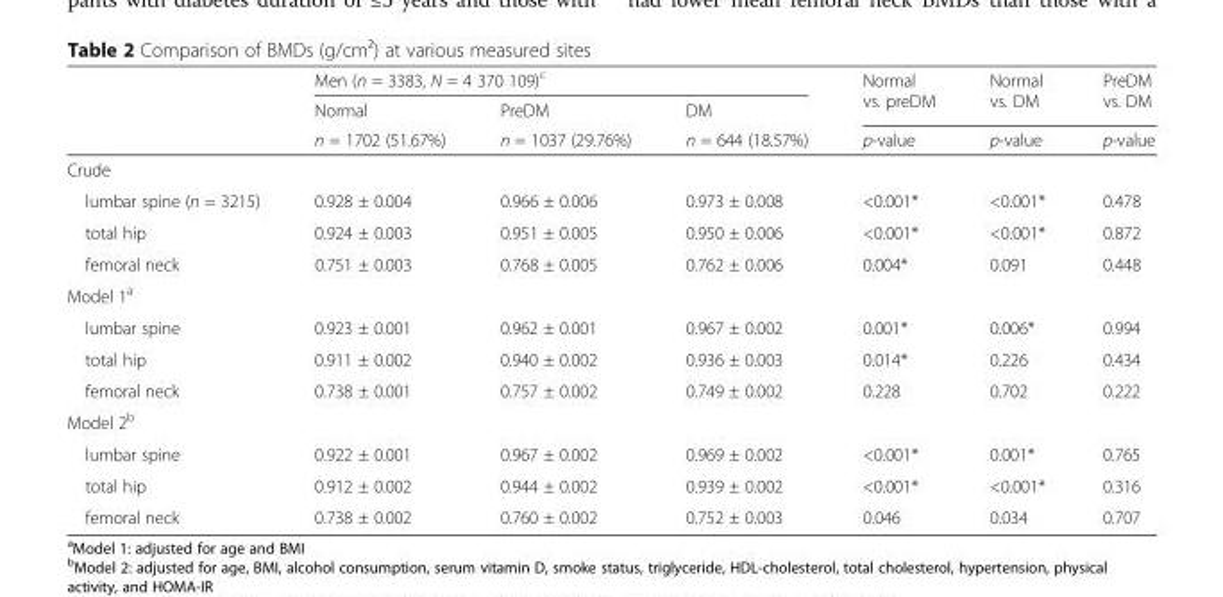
<table><thead><tr><td rowspan="3"></td><td colspan="3">Men (n = 3383, N = 4 370 109)<sup>c</sup></td><td rowspan="3">Normal vs. preDM p-value</td><td rowspan="3">Normal vs. DM p-value</td><td rowspan="3">PreDM vs. DM p-value</td></tr><tr><td rowspan="2">Normal n = 1702 (51.67%)</td><td rowspan="2">PreDM n = 1037 (29.76%)</td><td rowspan="2">DM n = 644 (18.57%)</td></tr><tr></tr></thead><tbody><tr><td colspan="7">Crude</td></tr><tr><td>lumbar spine (n = 3215)</td><td>0.928 ± 0.004</td><td>0.966 ± 0.006</td><td>0.973 ± 0.008</td><td>&lt;0.001*</td><td>&lt;0.001*</td><td>0.478</td></tr><tr><td>total hip</td><td>0.924 ± 0.003</td><td>0.951 ± 0.005</td><td>0.950 ± 0.006</td><td>&lt;0.001*</td><td>&lt;0.001*</td><td>0.872</td></tr><tr><td>femoral neck</td><td>0.751 ± 0.003</td><td>0.768 ± 0.005</td><td>0.762 ± 0.006</td><td>0.004*</td><td>0.091</td><td>0.448</td></tr><tr><td colspan="7">Model 1<sup>a</sup></td></tr><tr><td>lumbar spine</td><td>0.923 ± 0.001</td><td>0.962 ± 0.001</td><td>0.967 ± 0.002</td><td>0.001*</td><td>0.006*</td><td>0.994</td></tr><tr><td>total hip</td><td>0.911 ± 0.002</td><td>0.940 ± 0.002</td><td>0.936 ± 0.003</td><td>0.014*</td><td>0.226</td><td>0.434</td></tr><tr><td>femoral neck</td><td>0.738 ± 0.001</td><td>0.757 ± 0.002</td><td>0.749 ± 0.002</td><td>0.228</td><td>0.702</td><td>0.222</td></tr><tr><td colspan="7">Model 2<sup>b</sup></td></tr><tr><td>lumbar spine</td><td>0.922 ± 0.001</td><td>0.967 ± 0.002</td><td>0.969 ± 0.002</td><td>&lt;0.001*</td><td>0.001*</td><td>0.765</td></tr><tr><td>total hip</td><td>0.912 ± 0.002</td><td>0.944 ± 0.002</td><td>0.939 ± 0.002</td><td>&lt;0.001*</td><td>&lt;0.001*</td><td>0.316</td></tr><tr><td>femoral neck</td><td>0.738 ± 0.002</td><td>0.760 ± 0.002</td><td>0.752 ± 0.003</td><td>0.046</td><td>0.034</td><td>0.707</td></tr></tbody></table>